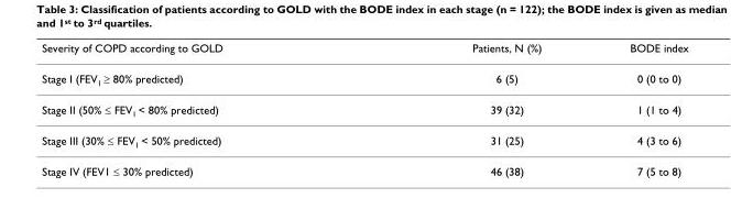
<table><thead><tr><td>Severity of COPD according to GOLD</td><td>Patients, N (%)</td><td>BODE index</td></tr></thead><tbody><tr><td>Stage I (FEV<sub>1</sub> ≥ 80% predicted)</td><td>6 (5)</td><td>0 (0 to 0)</td></tr><tr><td>Stage II (50% ≤ FEV<sub>1</sub> &lt; 80% predicted)</td><td>39 (32)</td><td>1 (1 to 4)</td></tr><tr><td>Stage III (30% ≤ FEV<sub>1</sub> &lt; 50% predicted)</td><td>31 (25)</td><td>4 (3 to 6)</td></tr><tr><td>Stage IV (FEV1 ≤ 30% predicted)</td><td>46 (38)</td><td>7 (5 to 8)</td></tr></tbody></table>